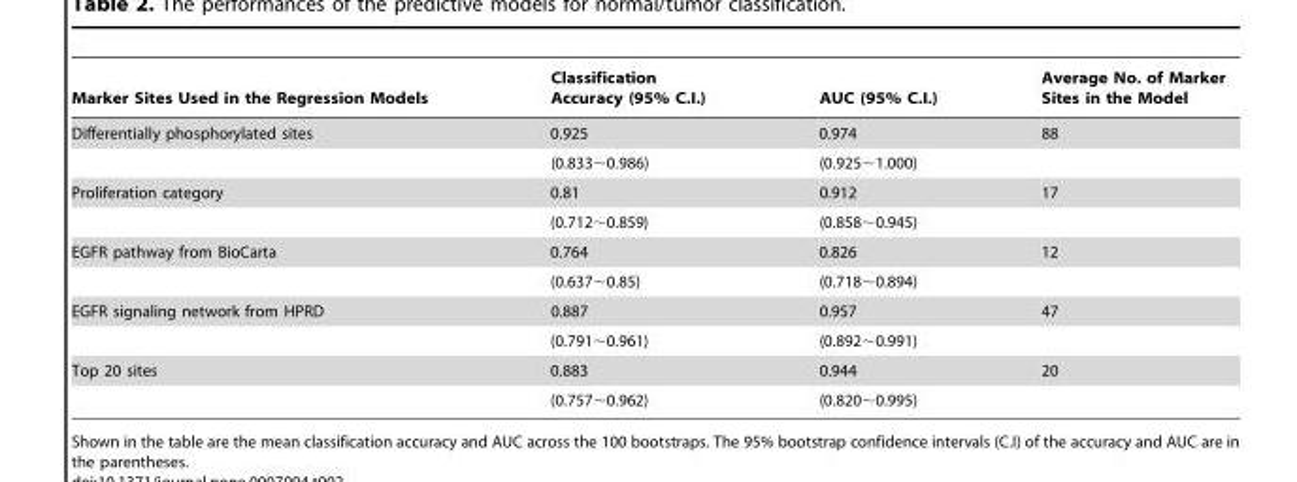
<table><thead><tr><td>Marker Sites Used in the Regression Models</td><td>Classification Accuracy (95% C.I.)</td><td>AUC (95% C.I.)</td><td>Average No. of Marker Sites in the Model</td></tr></thead><tbody><tr><td rowspan="2">Differentially phosphorylated sites</td><td>0.925</td><td>0.974</td><td>88</td></tr><tr><td>(0.833∼0.986)</td><td>(0.925∼1.000)</td><td></td></tr><tr><td rowspan="2">Proliferation category</td><td>0.81</td><td>0.912</td><td>17</td></tr><tr><td>(0.712∼0.859)</td><td>(0.858∼0.945)</td><td></td></tr><tr><td rowspan="2">EGFR pathway from BioCarta</td><td>0.764</td><td>0.826</td><td>12</td></tr><tr><td>(0.637∼0.85)</td><td>(0.718∼0.894)</td><td></td></tr><tr><td rowspan="2">EGFR signaling network from HPRD</td><td>0.887</td><td>0.957</td><td>47</td></tr><tr><td>(0.791∼0.961)</td><td>(0.892∼0.991)</td><td></td></tr><tr><td rowspan="2">Top 20 sites</td><td>0.883</td><td>0.944</td><td>20</td></tr><tr><td>(0.757∼0.962)</td><td>(0.820∼0.995)</td><td></td></tr></tbody></table>